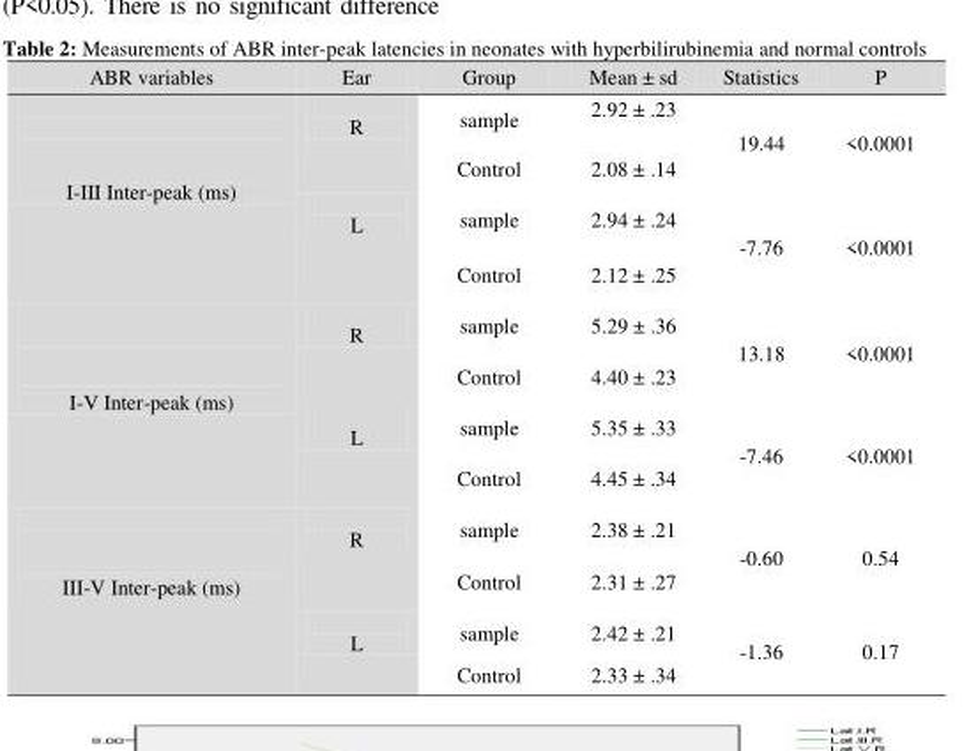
<table><thead><tr><td>ABR variables</td><td>Ear</td><td>Group</td><td>Mean ± sd</td><td>Statistics</td><td>P</td></tr></thead><tbody><tr><td rowspan="4">I-III Inter-peak (ms)</td><td rowspan="2">R</td><td>sample</td><td>2.92 ± .23</td><td rowspan="2">19.44</td><td rowspan="2">&lt;0.0001</td></tr><tr><td>Control</td><td>2.08 ± .14</td></tr><tr><td rowspan="2">L</td><td>sample</td><td>2.94 ± .24</td><td rowspan="2">-7.76</td><td rowspan="2">&lt;0.0001</td></tr><tr><td>Control</td><td>2.12 ± .25</td></tr><tr><td rowspan="4">I-V Inter-peak (ms)</td><td rowspan="2">R</td><td>sample</td><td>5.29 ± .36</td><td rowspan="2">13.18</td><td rowspan="2">&lt;0.0001</td></tr><tr><td>Control</td><td>4.40 ± .23</td></tr><tr><td rowspan="2">L</td><td>sample</td><td>5.35 ± .33</td><td rowspan="2">-7.46</td><td rowspan="2">&lt;0.0001</td></tr><tr><td>Control</td><td>4.45 ± .34</td></tr><tr><td rowspan="4">III-V Inter-peak (ms)</td><td rowspan="2">R</td><td>sample</td><td>2.38 ± .21</td><td rowspan="2">-0.60</td><td rowspan="2">0.54</td></tr><tr><td>Control</td><td>2.31 ± .27</td></tr><tr><td rowspan="2">L</td><td>sample</td><td>2.42 ± .21</td><td rowspan="2">-1.36</td><td rowspan="2">0.17</td></tr><tr><td>Control</td><td>2.33 ± .34</td></tr></tbody></table>